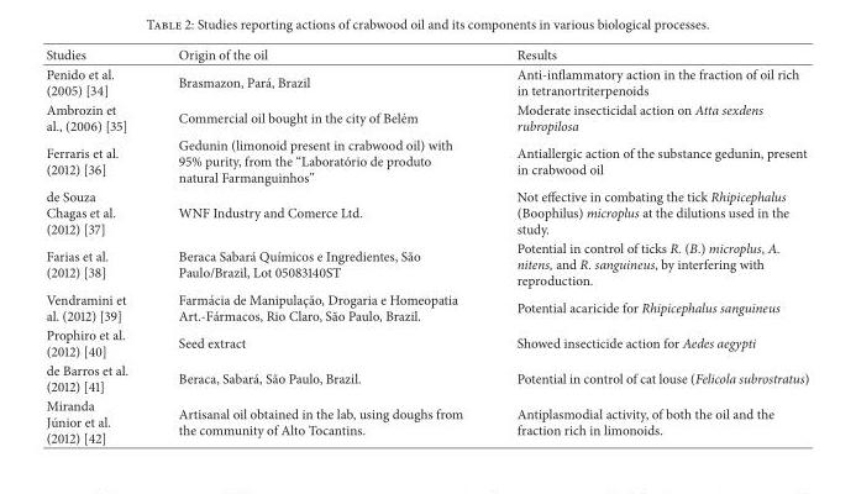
<table><thead><tr><td>Studies</td><td>Origin of the oil</td><td>Results</td></tr></thead><tbody><tr><td>Penido et al. (2005) [34]</td><td>Brasmazon, Par´a, Brazil</td><td>Anti-inflammatory action in the fraction of oil rich in tetranortriterpenoids</td></tr><tr><td>Ambrozin et al., (2006) [35]</td><td>Commercial oil bought in the city of Bel´em</td><td>Moderate insecticidal action on Atta sexdens rubropilosa</td></tr><tr><td>Ferraris et al. (2012) [36]</td><td>Gedunin (limonoid present in crabwood oil) with 95% purity, from the “Laborat´orio de produto natural Farmanguinhos”</td><td>Antiallergic action of the substance gedunin, present in crabwood oil</td></tr><tr><td>de Souza Chagas et al. (2012) [37]</td><td>WNF Industry and Comerce Ltd.</td><td>Not effective in combating the tick Rhipicephalus (Boophilus) microplus at the dilutions used in the study.</td></tr><tr><td>Farias et al. (2012) [38]</td><td>Beraca Sabar´a Qu´ımicos e Ingredientes, S˜ao Paulo/Brazil, Lot 05083140ST</td><td>Potential in control of ticks R. (B.) microplus, A. nitens, and R. sanguineus, by interfering with reproduction.</td></tr><tr><td>Vendramini et al. (2012) [39]</td><td>Farm´acia de Manipulac¸˜ao, Drogaria e Homeopatia Art.-F´armacos, Rio Claro, S˜ao Paulo, Brazil.</td><td>Potential acaricide for Rhipicephalus sanguineus</td></tr><tr><td>Prophiro et al. (2012) [40]</td><td>Seed extract</td><td>Showed insecticide action for Aedes aegypti</td></tr><tr><td>de Barros et al. (2012) [41]</td><td>Beraca, Sabar´a, S˜ao Paulo, Brazil.</td><td>Potential in control of cat louse (Felicola subrostratus)</td></tr><tr><td>Miranda J´unior et al. (2012) [42]</td><td>Artisanal oil obtained in the lab, using doughs from the community of Alto Tocantins.</td><td>Antiplasmodial activity, of both the oil and the fraction rich in limonoids.</td></tr></tbody></table>